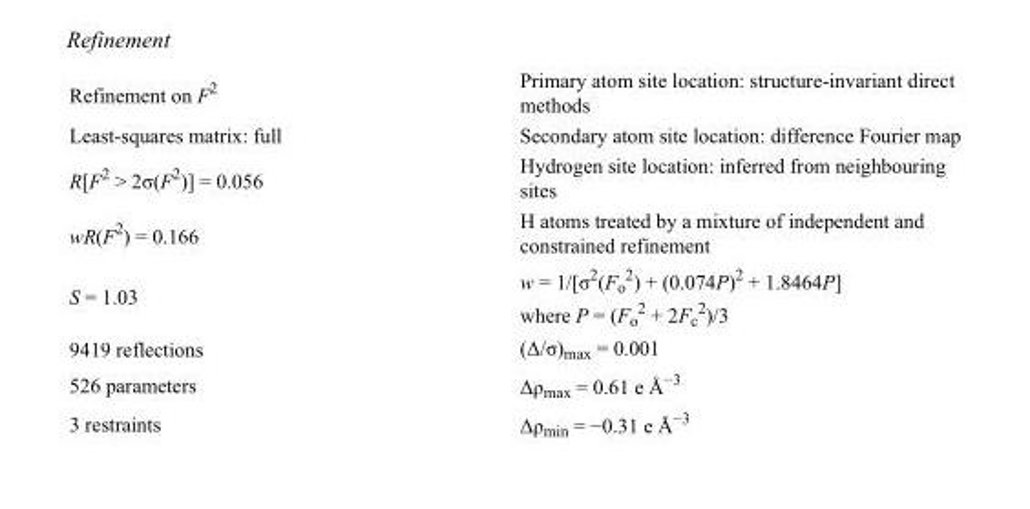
<table><tbody><tr><td>Refinement on F<sup>2</sup></td><td>Primary atom site location: structure-invariant direct methods</td></tr><tr><td>Least-squares matrix: full</td><td>Secondary atom site location: difference Fourier map</td></tr><tr><td>R[F<sup>2</sup> &gt; 2σ(F<sup>2</sup>)] = 0.056</td><td>Hydrogen site location: inferred from neighbouring sites</td></tr><tr><td>wR(F<sup>2</sup>) = 0.166</td><td>H atoms treated by a mixture of independent and constrained refinement</td></tr><tr><td>S = 1.03</td><td>w = 1/[σ<sup>2</sup>(F<sub>o</sub> <sup>2</sup>) + (0.074P)<sup>2</sup> + 1.8464P] where P = (F<sub>o</sub> <sup>2</sup> + 2F<sub>c</sub> <sup>2</sup>)/3</td></tr><tr><td>9419 reflections</td><td>(Δ/σ)<sub>max</sub> = 0.001</td></tr><tr><td>526 parameters</td><td>Δρ<sub>max</sub> = 0.61 e Å<sup>−3</sup></td></tr><tr><td>3 restraints</td><td>Δρ<sub>min</sub> = −0.31 e Å<sup>−3</sup></td></tr></tbody></table>